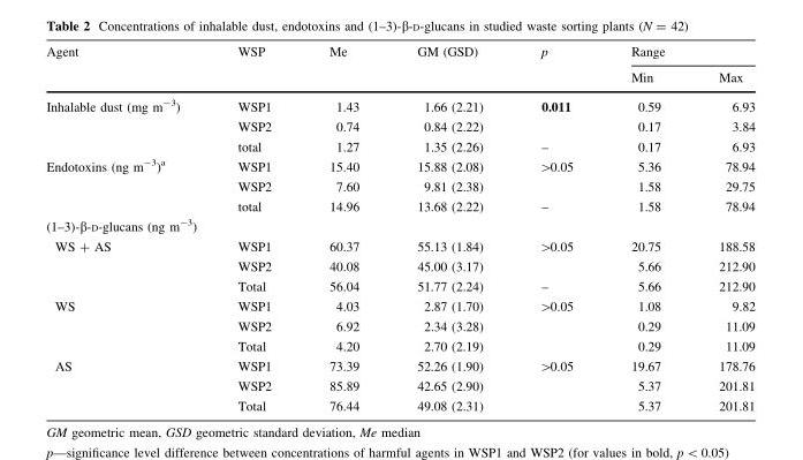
<table><thead><tr><td rowspan="2">Agent</td><td rowspan="2">WSP</td><td rowspan="2">Me</td><td rowspan="2">GM (GSD)</td><td rowspan="2">p</td><td colspan="2">Range</td></tr><tr><td>Min</td><td>Max</td></tr></thead><tbody><tr><td rowspan="3">Inhalable dust (mg m<sup>-3</sup>)</td><td>WSP1</td><td>1.43</td><td>1.66 (2.21)</td><td rowspan="2">0.011</td><td>0.59</td><td>6.93</td></tr><tr><td>WSP2</td><td>0.74</td><td>0.84 (2.22)</td><td>0.17</td><td>3.84</td></tr><tr><td>total</td><td>1.27</td><td>1.35 (2.26)</td><td>–</td><td>0.17</td><td>6.93</td></tr><tr><td rowspan="3">Endotoxins (ng m<sup>-3</sup>)<sup>a</sup></td><td>WSP1</td><td>15.40</td><td>15.88 (2.08)</td><td rowspan="2">&gt;0.05</td><td>5.36</td><td>78.94</td></tr><tr><td>WSP2</td><td>7.60</td><td>9.81 (2.38)</td><td>1.58</td><td>29.75</td></tr><tr><td>total</td><td>14.96</td><td>13.68 (2.22)</td><td>–</td><td>1.58</td><td>78.94</td></tr><tr><td colspan="7">(1–3)-β-D-glucans (ng m<sup>-3</sup>)</td></tr><tr><td rowspan="3">WS + AS</td><td>WSP1</td><td>60.37</td><td>55.13 (1.84)</td><td rowspan="2">&gt;0.05</td><td>20.75</td><td>188.58</td></tr><tr><td>WSP2</td><td>40.08</td><td>45.00 (3.17)</td><td>5.66</td><td>212.90</td></tr><tr><td>Total</td><td>56.04</td><td>51.77 (2.24)</td><td>–</td><td>5.66</td><td>212.90</td></tr><tr><td rowspan="3">WS</td><td>WSP1</td><td>4.03</td><td>2.87 (1.70)</td><td rowspan="2">&gt;0.05</td><td>1.08</td><td>9.82</td></tr><tr><td>WSP2</td><td>6.92</td><td>2.34 (3.28)</td><td>0.29</td><td>11.09</td></tr><tr><td>Total</td><td>4.20</td><td>2.70 (2.19)</td><td></td><td>0.29</td><td>11.09</td></tr><tr><td rowspan="3">AS</td><td>WSP1</td><td>73.39</td><td>52.26 (1.90)</td><td rowspan="2">&gt;0.05</td><td>19.67</td><td>178.76</td></tr><tr><td>WSP2</td><td>85.89</td><td>42.65 (2.90)</td><td>5.37</td><td>201.81</td></tr><tr><td>Total</td><td>76.44</td><td>49.08 (2.31)</td><td></td><td>5.37</td><td>201.81</td></tr></tbody></table>